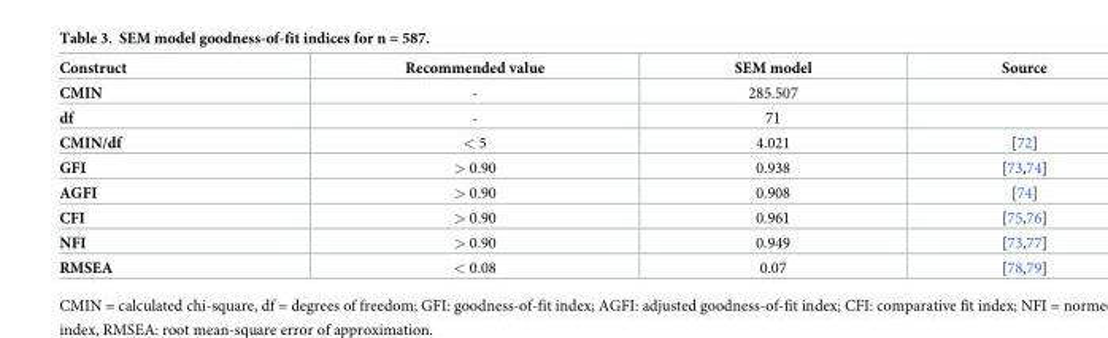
<table><thead><tr><td>Construct</td><td>Recommended value</td><td>SEM model</td><td>Source</td></tr></thead><tbody><tr><td>CMIN</td><td>-</td><td>285.507</td><td></td></tr><tr><td>df</td><td>-</td><td>71</td><td></td></tr><tr><td>CMIN/df</td><td>&lt; 5</td><td>4.021</td><td>[72]</td></tr><tr><td>GFI</td><td>&gt; 0.90</td><td>0.938</td><td>[73,74]</td></tr><tr><td>AGFI</td><td>&gt; 0.90</td><td>0.908</td><td>[74]</td></tr><tr><td>CFI</td><td>&gt; 0.90</td><td>0.961</td><td>[75,76]</td></tr><tr><td>NFI</td><td>&gt; 0.90</td><td>0.949</td><td>[73,77]</td></tr><tr><td>RMSEA</td><td>&lt; 0.08</td><td>0.07</td><td>[78,79]</td></tr></tbody></table>